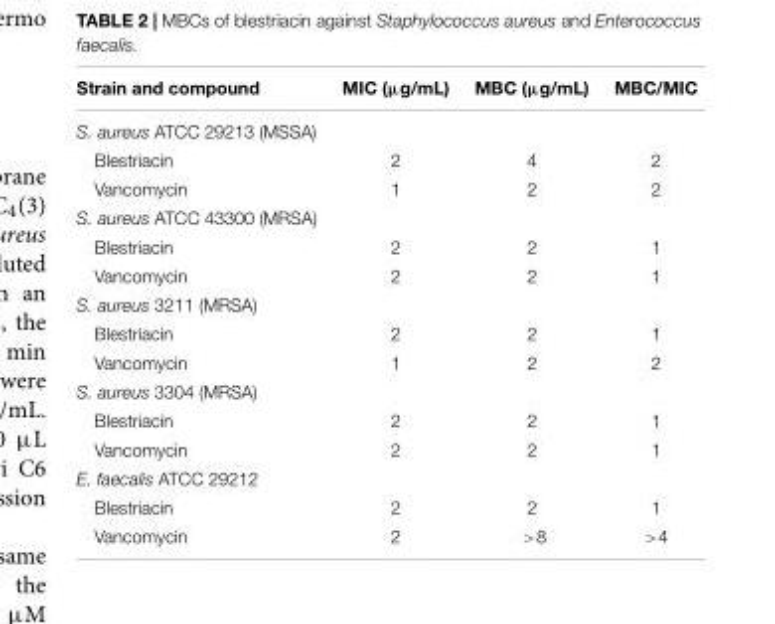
<table><thead><tr><td>Strain and compound</td><td>MIC (µg/mL)</td><td>MBC (µg/mL)</td><td>MBC/MIC</td></tr></thead><tbody><tr><td colspan="4">S. aureus ATCC 29213 (MSSA)</td></tr><tr><td>Blestriacin</td><td>2</td><td>4</td><td>2</td></tr><tr><td>Vancomycin</td><td>1</td><td>2</td><td>2</td></tr><tr><td colspan="4">S. aureus ATCC 43300 (MRSA)</td></tr><tr><td>Blestriacin</td><td>2</td><td>2</td><td>1</td></tr><tr><td>Vancomycin</td><td>2</td><td>2</td><td>1</td></tr><tr><td colspan="4">S. aureus 3211 (MRSA)</td></tr><tr><td>Blestriacin</td><td>2</td><td>2</td><td>1</td></tr><tr><td>Vancomycin</td><td>1</td><td>2</td><td>2</td></tr><tr><td colspan="4">S. aureus 3304 (MRSA)</td></tr><tr><td>Blestriacin</td><td>2</td><td>2</td><td>1</td></tr><tr><td>Vancomycin</td><td>2</td><td>2</td><td>1</td></tr><tr><td colspan="4">E. faecalis ATCC 29212</td></tr><tr><td>Blestriacin</td><td>2</td><td>2</td><td>1</td></tr><tr><td>Vancomycin</td><td>2</td><td>&gt;8</td><td>&gt;4</td></tr></tbody></table>